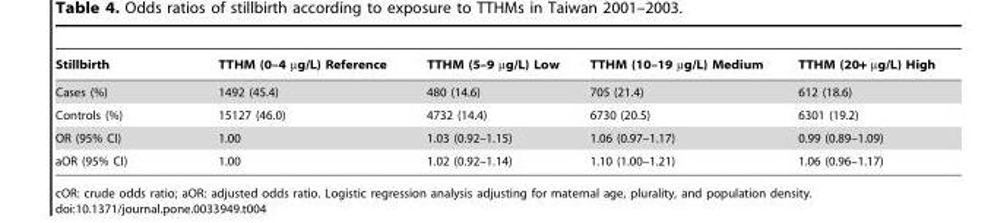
<table><thead><tr><td>Stillbirth</td><td>TTHM (0–4 µg/L) Reference</td><td>TTHM (5–9 µg/L) Low</td><td>TTHM (10–19 µg/L) Medium</td><td>TTHM (20+ µg/L) High</td></tr></thead><tbody><tr><td>Cases (%)</td><td>1492 (45.4)</td><td>480 (14.6)</td><td>705 (21.4)</td><td>612 (18.6)</td></tr><tr><td>Controls (%)</td><td>15127 (46.0)</td><td>4732 (14.4)</td><td>6730 (20.5)</td><td>6301 (19.2)</td></tr><tr><td>OR (95% CI)</td><td>1.00</td><td>1.03 (0.92–1.15)</td><td>1.06 (0.97–1.17)</td><td>0.99 (0.89–1.09)</td></tr><tr><td>aOR (95% CI)</td><td>1.00</td><td>1.02 (0.92–1.14)</td><td>1.10 (1.00–1.21)</td><td>1.06 (0.96–1.17)</td></tr></tbody></table>